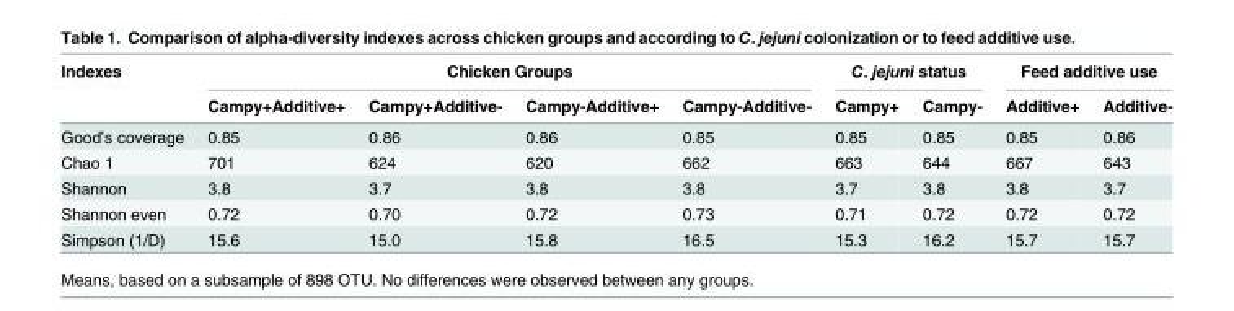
<table><thead><tr><td rowspan="2">Indexes</td><td colspan="4">Chicken Groups</td><td colspan="2">C. jejuni status</td><td colspan="2">Feed additive use</td></tr><tr><td>Campy+Additive+</td><td>Campy+Additive-</td><td>Campy-Additive+</td><td>Campy-Additive-</td><td>Campy+</td><td>Campy-</td><td>Additive+</td><td>Additive-</td></tr></thead><tbody><tr><td>Good’s coverage</td><td>0.85</td><td>0.86</td><td>0.86</td><td>0.85</td><td>0.85</td><td>0.85</td><td>0.85</td><td>0.86</td></tr><tr><td>Chao 1</td><td>701</td><td>624</td><td>620</td><td>662</td><td>663</td><td>644</td><td>667</td><td>643</td></tr><tr><td>Shannon</td><td>3.8</td><td>3.7</td><td>3.8</td><td>3.8</td><td>3.7</td><td>3.8</td><td>3.8</td><td>3.7</td></tr><tr><td>Shannon even</td><td>0.72</td><td>0.70</td><td>0.72</td><td>0.73</td><td>0.71</td><td>0.72</td><td>0.72</td><td>0.72</td></tr><tr><td>Simpson (1/D)</td><td>15.6</td><td>15.0</td><td>15.8</td><td>16.5</td><td>15.3</td><td>16.2</td><td>15.7</td><td>15.7</td></tr></tbody></table>